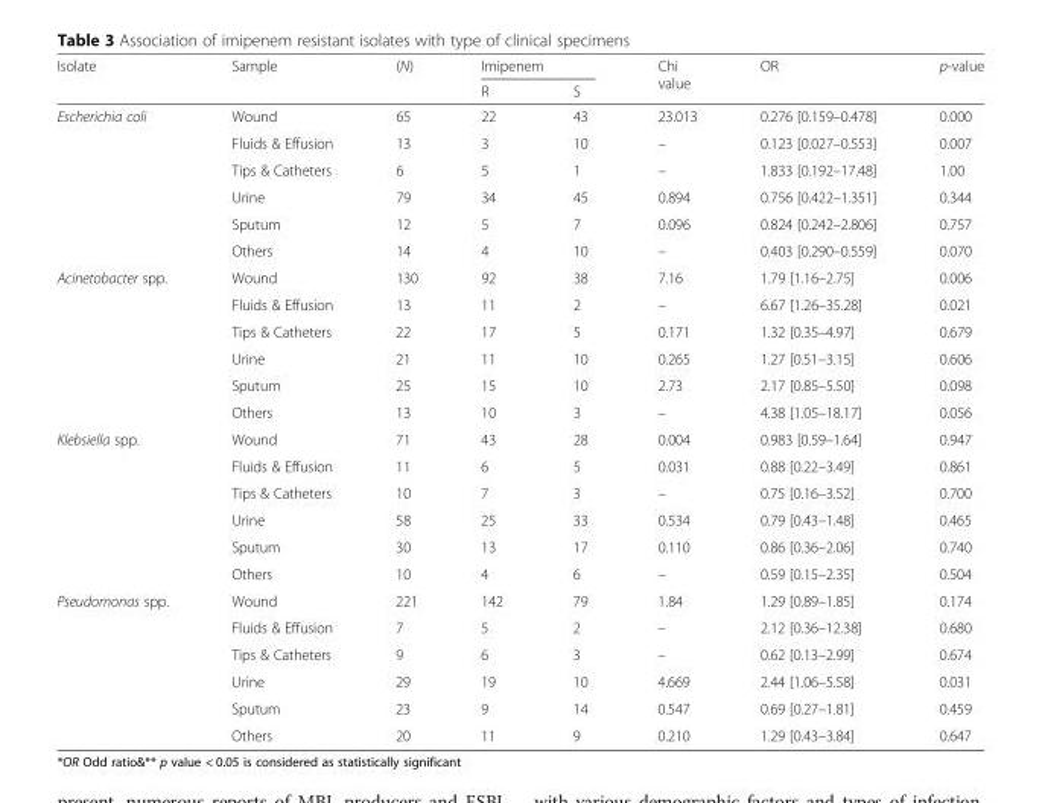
<table><thead><tr><td rowspan="2">Isolate</td><td rowspan="2">Sample</td><td rowspan="2">(N)</td><td colspan="2">Imipenem</td><td rowspan="2">Chi value</td><td rowspan="2">OR</td><td rowspan="2">p-value</td></tr><tr><td>R</td><td>S</td></tr></thead><tbody><tr><td rowspan="6">Escherichia coli</td><td>Wound</td><td>65</td><td>22</td><td>43</td><td>23.013</td><td>0.276 [0.159–0.478]</td><td>0.000</td></tr><tr><td>Fluids &amp; Effusion</td><td>13</td><td>3</td><td>10</td><td>–</td><td>0.123 [0.027–0.553]</td><td>0.007</td></tr><tr><td>Tips &amp; Catheters</td><td>6</td><td>5</td><td>1</td><td>–</td><td>1.833 [0.192–17.48]</td><td>1.00</td></tr><tr><td>Urine</td><td>79</td><td>34</td><td>45</td><td>0.894</td><td>0.756 [0.422–1.351]</td><td>0.344</td></tr><tr><td>Sputum</td><td>12</td><td>5</td><td>7</td><td>0.096</td><td>0.824 [0.242–2.806]</td><td>0.757</td></tr><tr><td>Others</td><td>14</td><td>4</td><td>10</td><td>–</td><td>0.403 [0.290–0.559]</td><td>0.070</td></tr><tr><td rowspan="6">Acinetobacter spp.</td><td>Wound</td><td>130</td><td>92</td><td>38</td><td>7.16</td><td>1.79 [1.16–2.75]</td><td>0.006</td></tr><tr><td>Fluids &amp; Effusion</td><td>13</td><td>11</td><td>2</td><td>–</td><td>6.67 [1.26–35.28]</td><td>0.021</td></tr><tr><td>Tips &amp; Catheters</td><td>22</td><td>17</td><td>5</td><td>0.171</td><td>1.32 [0.35–4.97]</td><td>0.679</td></tr><tr><td>Urine</td><td>21</td><td>11</td><td>10</td><td>0.265</td><td>1.27 [0.51–3.15]</td><td>0.606</td></tr><tr><td>Sputum</td><td>25</td><td>15</td><td>10</td><td>2.73</td><td>2.17 [0.85–5.50]</td><td>0.098</td></tr><tr><td>Others</td><td>13</td><td>10</td><td>3</td><td>–</td><td>4.38 [1.05–18.17]</td><td>0.056</td></tr><tr><td rowspan="6">Klebsiella spp.</td><td>Wound</td><td>71</td><td>43</td><td>28</td><td>0.004</td><td>0.983 [0.59–1.64]</td><td>0.947</td></tr><tr><td>Fluids &amp; Effusion</td><td>11</td><td>6</td><td>5</td><td>0.031</td><td>0.88 [0.22–3.49]</td><td>0.861</td></tr><tr><td>Tips &amp; Catheters</td><td>10</td><td>7</td><td>3</td><td>–</td><td>0.75 [0.16–3.52]</td><td>0.700</td></tr><tr><td>Urine</td><td>58</td><td>25</td><td>33</td><td>0.534</td><td>0.79 [0.43–1.48]</td><td>0.465</td></tr><tr><td>Sputum</td><td>30</td><td>13</td><td>17</td><td>0.110</td><td>0.86 [0.36–2.06]</td><td>0.740</td></tr><tr><td>Others</td><td>10</td><td>4</td><td>6</td><td>–</td><td>0.59 [0.15–2.35]</td><td>0.504</td></tr><tr><td rowspan="6">Pseudomonas spp.</td><td>Wound</td><td>221</td><td>142</td><td>79</td><td>1.84</td><td>1.29 [0.89–1.85]</td><td>0.174</td></tr><tr><td>Fluids &amp; Effusion</td><td>7</td><td>5</td><td>2</td><td>–</td><td>2.12 [0.36–12.38]</td><td>0.680</td></tr><tr><td>Tips &amp; Catheters</td><td>9</td><td>6</td><td>3</td><td>–</td><td>0.62 [0.13–2.99]</td><td>0.674</td></tr><tr><td>Urine</td><td>29</td><td>19</td><td>10</td><td>4.669</td><td>2.44 [1.06–5.58]</td><td>0.031</td></tr><tr><td>Sputum</td><td>23</td><td>9</td><td>14</td><td>0.547</td><td>0.69 [0.27–1.81]</td><td>0.459</td></tr><tr><td>Others</td><td>20</td><td>11</td><td>9</td><td>0.210</td><td>1.29 [0.43–3.84]</td><td>0.647</td></tr></tbody></table>